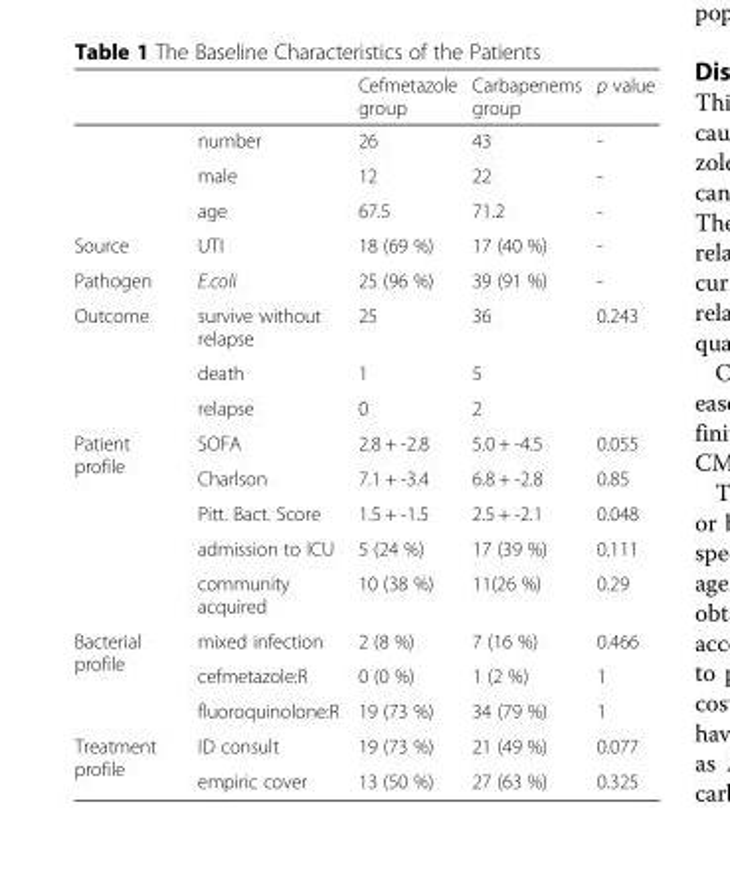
<table><thead><tr><td></td><td></td><td>Cefmetazole group</td><td>Carbapenems group</td><td>p value</td></tr></thead><tbody><tr><td></td><td>number</td><td>26</td><td>43</td><td>-</td></tr><tr><td></td><td>male</td><td>12</td><td>22</td><td>-</td></tr><tr><td></td><td>age</td><td>67.5</td><td>71.2</td><td>-</td></tr><tr><td>Source</td><td>UTI</td><td>18 (69 %)</td><td>17 (40 %)</td><td>-</td></tr><tr><td>Pathogen</td><td>E.coli</td><td>25 (96 %)</td><td>39 (91 %)</td><td>-</td></tr><tr><td rowspan="3">Outcome</td><td>survive without relapse</td><td>25</td><td>36</td><td rowspan="3">0.243</td></tr><tr><td>death</td><td>1</td><td>5</td></tr><tr><td>relapse</td><td>0</td><td>2</td></tr><tr><td rowspan="5">Patient profile</td><td>SOFA</td><td>2.8 + -2.8</td><td>5.0 + -4.5</td><td>0.055</td></tr><tr><td>Charlson</td><td>7.1 + -3.4</td><td>6.8 + -2.8</td><td>0.85</td></tr><tr><td>Pitt. Bact. Score</td><td>1.5 + -1.5</td><td>2.5 + -2.1</td><td>0.048</td></tr><tr><td>admission to ICU</td><td>5 (24 %)</td><td>17 (39 %)</td><td>0.111</td></tr><tr><td>community acquired</td><td>10 (38 %)</td><td>11(26 %)</td><td>0.29</td></tr><tr><td rowspan="3">Bacterial profile</td><td>mixed infection</td><td>2 (8 %)</td><td>7 (16 %)</td><td>0.466</td></tr><tr><td>cefmetazole:R</td><td>0 (0 %)</td><td>1 (2 %)</td><td>1</td></tr><tr><td>fluoroquinolone:R</td><td>19 (73 %)</td><td>34 (79 %)</td><td>1</td></tr><tr><td rowspan="2">Treatment profile</td><td>ID consult</td><td>19 (73 %)</td><td>21 (49 %)</td><td>0.077</td></tr><tr><td>empiric cover</td><td>13 (50 %)</td><td>27 (63 %)</td><td>0.325</td></tr></tbody></table>